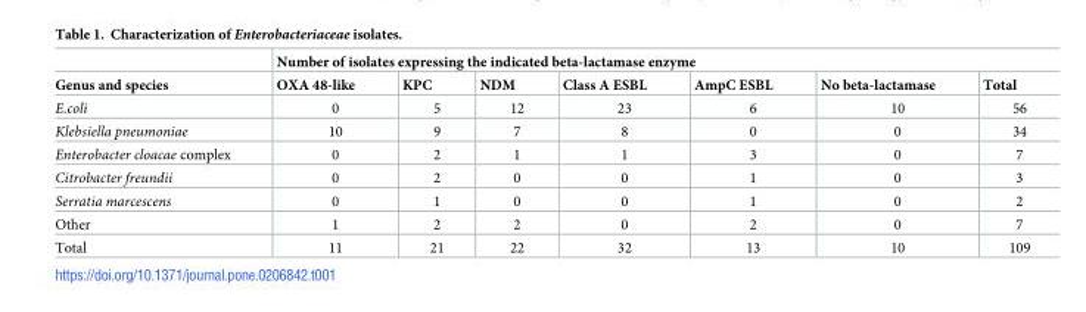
<table><thead><tr><td rowspan="2">Genus and species</td><td colspan="7">Number of isolates expressing the indicated beta-lactamase enzyme</td></tr><tr><td>OXA 48-like</td><td>KPC</td><td>NDM</td><td>Class A ESBL</td><td>AmpC ESBL</td><td>No beta-lactamase</td><td>Total</td></tr></thead><tbody><tr><td>E.coli</td><td>0</td><td>5</td><td>12</td><td>23</td><td>6</td><td>10</td><td>56</td></tr><tr><td>Klebsiella pneumoniae</td><td>10</td><td>9</td><td>7</td><td>8</td><td>0</td><td>0</td><td>34</td></tr><tr><td>Enterobacter cloacae complex</td><td>0</td><td>2</td><td>1</td><td>1</td><td>3</td><td>0</td><td>7</td></tr><tr><td>Citrobacter freundii</td><td>0</td><td>2</td><td>0</td><td>0</td><td>1</td><td>0</td><td>3</td></tr><tr><td>Serratia marcescens</td><td>0</td><td>1</td><td>0</td><td>0</td><td>1</td><td>0</td><td>2</td></tr><tr><td>Other</td><td>1</td><td>2</td><td>2</td><td>0</td><td>2</td><td>0</td><td>7</td></tr><tr><td>Total</td><td>11</td><td>21</td><td>22</td><td>32</td><td>13</td><td>10</td><td>109</td></tr></tbody></table>